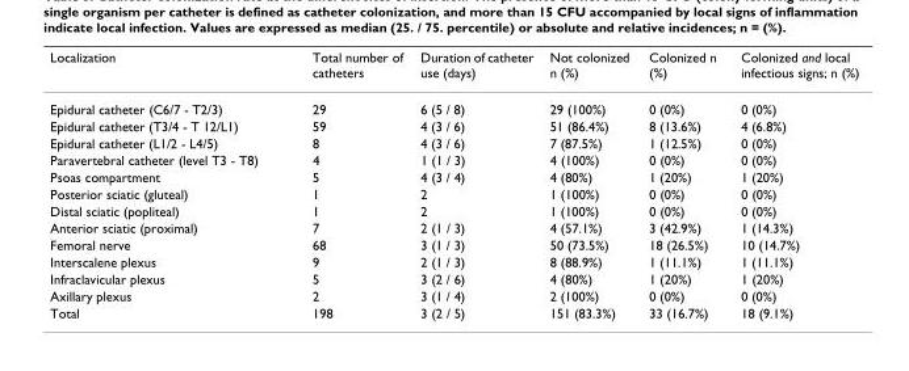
<table><thead><tr><td>Localization</td><td>Total number of catheters</td><td>Duration of catheter use (days)</td><td>Not colonized n (%)</td><td>Colonized n (%)</td><td>Colonized and local infectious signs; n (%)</td></tr></thead><tbody><tr><td>Epidural catheter (C6/7 - T2/3)</td><td>29</td><td>6 (5 / 8)</td><td>29 (100%)</td><td>0 (0%)</td><td>0 (0%)</td></tr><tr><td>Epidural catheter (T3/4 - T 12/L1)</td><td>59</td><td>4 (3 / 6)</td><td>51 (86.4%)</td><td>8 (13.6%)</td><td>4 (6.8%)</td></tr><tr><td>Epidural catheter (L1/2 - L4/5)</td><td>8</td><td>4 (3 / 6)</td><td>7 (87.5%)</td><td>1 (12.5%)</td><td>0 (0%)</td></tr><tr><td>Paravertebral catheter (level T3 - T8)</td><td>4</td><td>1 (1 / 3)</td><td>4 (100%)</td><td>0 (0%)</td><td>0 (0%)</td></tr><tr><td>Psoas compartment</td><td>5</td><td>4 (3 / 4)</td><td>4 (80%)</td><td>1 (20%)</td><td>1 (20%)</td></tr><tr><td>Posterior sciatic (gluteal)</td><td>1</td><td>2</td><td>1 (100%)</td><td>0 (0%)</td><td>0 (0%)</td></tr><tr><td>Distal sciatic (popliteal)</td><td>1</td><td>2</td><td>1 (100%)</td><td>0 (0%)</td><td>0 (0%)</td></tr><tr><td>Anterior sciatic (proximal)</td><td>7</td><td>2 (1 / 3)</td><td>4 (57.1%)</td><td>3 (42.9%)</td><td>1 (14.3%)</td></tr><tr><td>Femoral nerve</td><td>68</td><td>3 (1 / 3)</td><td>50 (73.5%)</td><td>18 (26.5%)</td><td>10 (14.7%)</td></tr><tr><td>Interscalene plexus</td><td>9</td><td>2 (1 / 3)</td><td>8 (88.9%)</td><td>1 (11.1%)</td><td>1 (11.1%)</td></tr><tr><td>Infraclavicular plexus</td><td>5</td><td>3 (2 / 6)</td><td>4 (80%)</td><td>1 (20%)</td><td>1 (20%)</td></tr><tr><td>Axillary plexus</td><td>2</td><td>3 (1 / 4)</td><td>2 (100%)</td><td>0 (0%)</td><td>0 (0%)</td></tr><tr><td>Total</td><td>198</td><td>3 (2 / 5)</td><td>151 (83.3%)</td><td>33 (16.7%)</td><td>18 (9.1%)</td></tr></tbody></table>